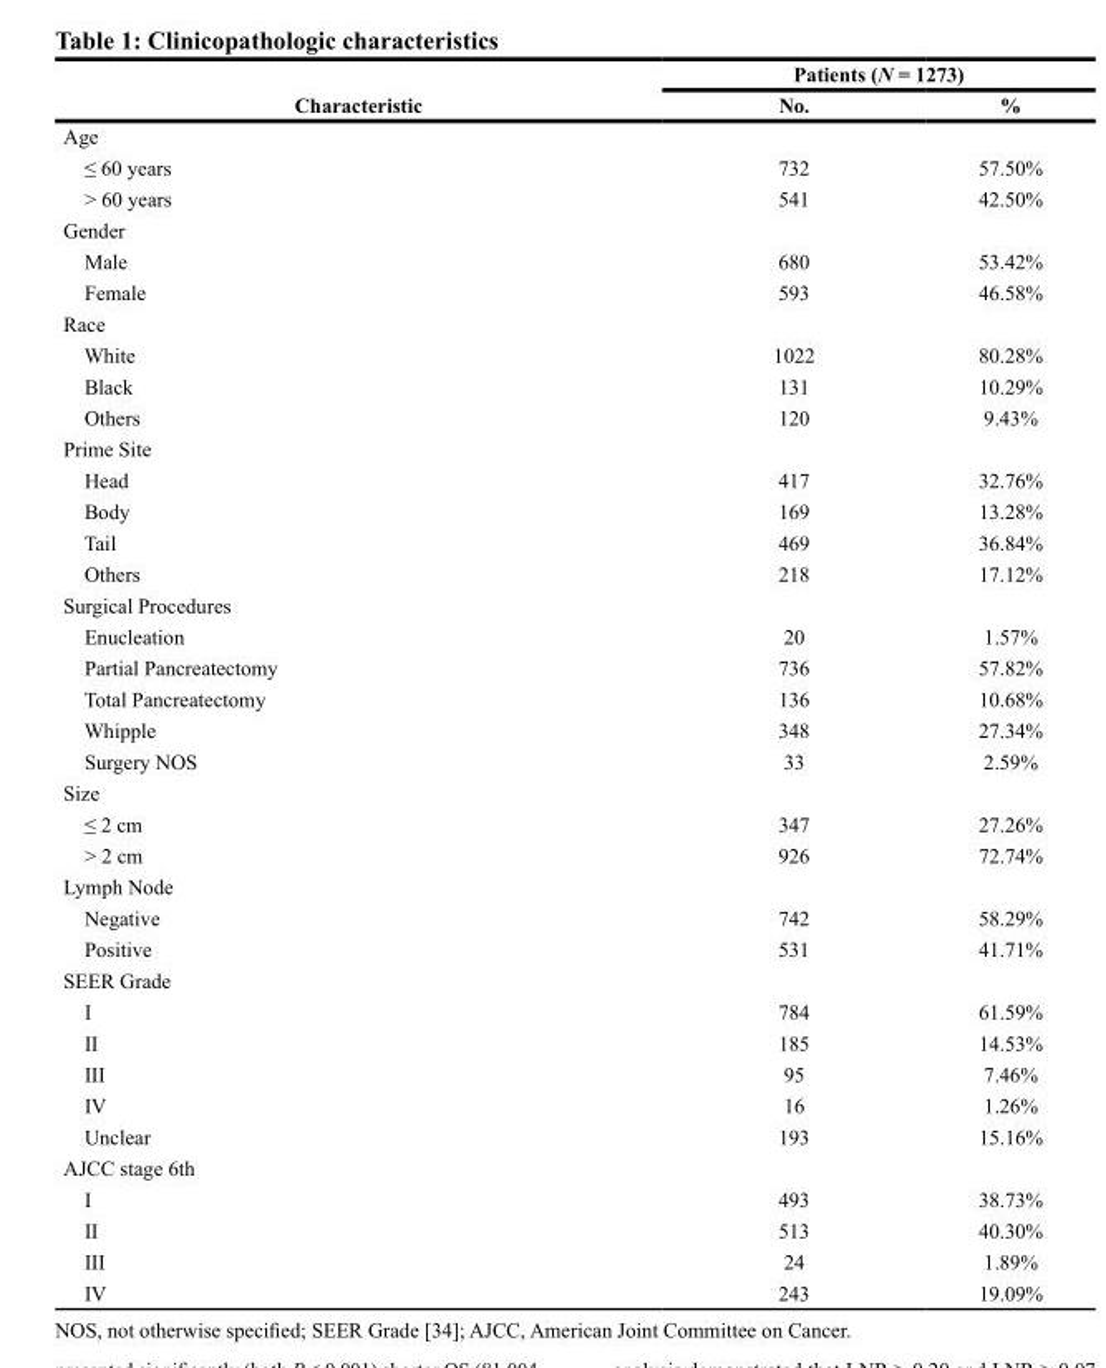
<table><thead><tr><td rowspan="2">Characteristic</td><td colspan="2">Patients (N = 1273)</td></tr><tr><td>No.</td><td>%</td></tr></thead><tbody><tr><td colspan="3">Age</td></tr><tr><td>≤ 60 years</td><td>732</td><td>57.50%</td></tr><tr><td>&gt; 60 years</td><td>541</td><td>42.50%</td></tr><tr><td colspan="3">Gender</td></tr><tr><td>Male</td><td>680</td><td>53.42%</td></tr><tr><td>Female</td><td>593</td><td>46.58%</td></tr><tr><td colspan="3">Race</td></tr><tr><td>White</td><td>1022</td><td>80.28%</td></tr><tr><td>Black</td><td>131</td><td>10.29%</td></tr><tr><td>Others</td><td>120</td><td>9.43%</td></tr><tr><td colspan="3">Prime Site</td></tr><tr><td>Head</td><td>417</td><td>32.76%</td></tr><tr><td>Body</td><td>169</td><td>13.28%</td></tr><tr><td>Tail</td><td>469</td><td>36.84%</td></tr><tr><td>Others</td><td>218</td><td>17.12%</td></tr><tr><td colspan="3">Surgical Procedures</td></tr><tr><td>Enucleation</td><td>20</td><td>1.57%</td></tr><tr><td>Partial Pancreatectomy</td><td>736</td><td>57.82%</td></tr><tr><td>Total Pancreatectomy</td><td>136</td><td>10.68%</td></tr><tr><td>Whipple</td><td>348</td><td>27.34%</td></tr><tr><td>Surgery NOS</td><td>33</td><td>2.59%</td></tr><tr><td colspan="3">Size</td></tr><tr><td>≤ 2 cm</td><td>347</td><td>27.26%</td></tr><tr><td>&gt; 2 cm</td><td>926</td><td>72.74%</td></tr><tr><td colspan="3">Lymph Node</td></tr><tr><td>Negative</td><td>742</td><td>58.29%</td></tr><tr><td>Positive</td><td>531</td><td>41.71%</td></tr><tr><td colspan="3">SEER Grade</td></tr><tr><td>I</td><td>784</td><td>61.59%</td></tr><tr><td>II</td><td>185</td><td>14.53%</td></tr><tr><td>III</td><td>95</td><td>7.46%</td></tr><tr><td>IV</td><td>16</td><td>1.26%</td></tr><tr><td>Unclear</td><td>193</td><td>15.16%</td></tr><tr><td colspan="3">AJCC stage 6th</td></tr><tr><td>I</td><td>493</td><td>38.73%</td></tr><tr><td>II</td><td>513</td><td>40.30%</td></tr><tr><td>III</td><td>24</td><td>1.89%</td></tr><tr><td>IV</td><td>243</td><td>19.09%</td></tr></tbody></table>